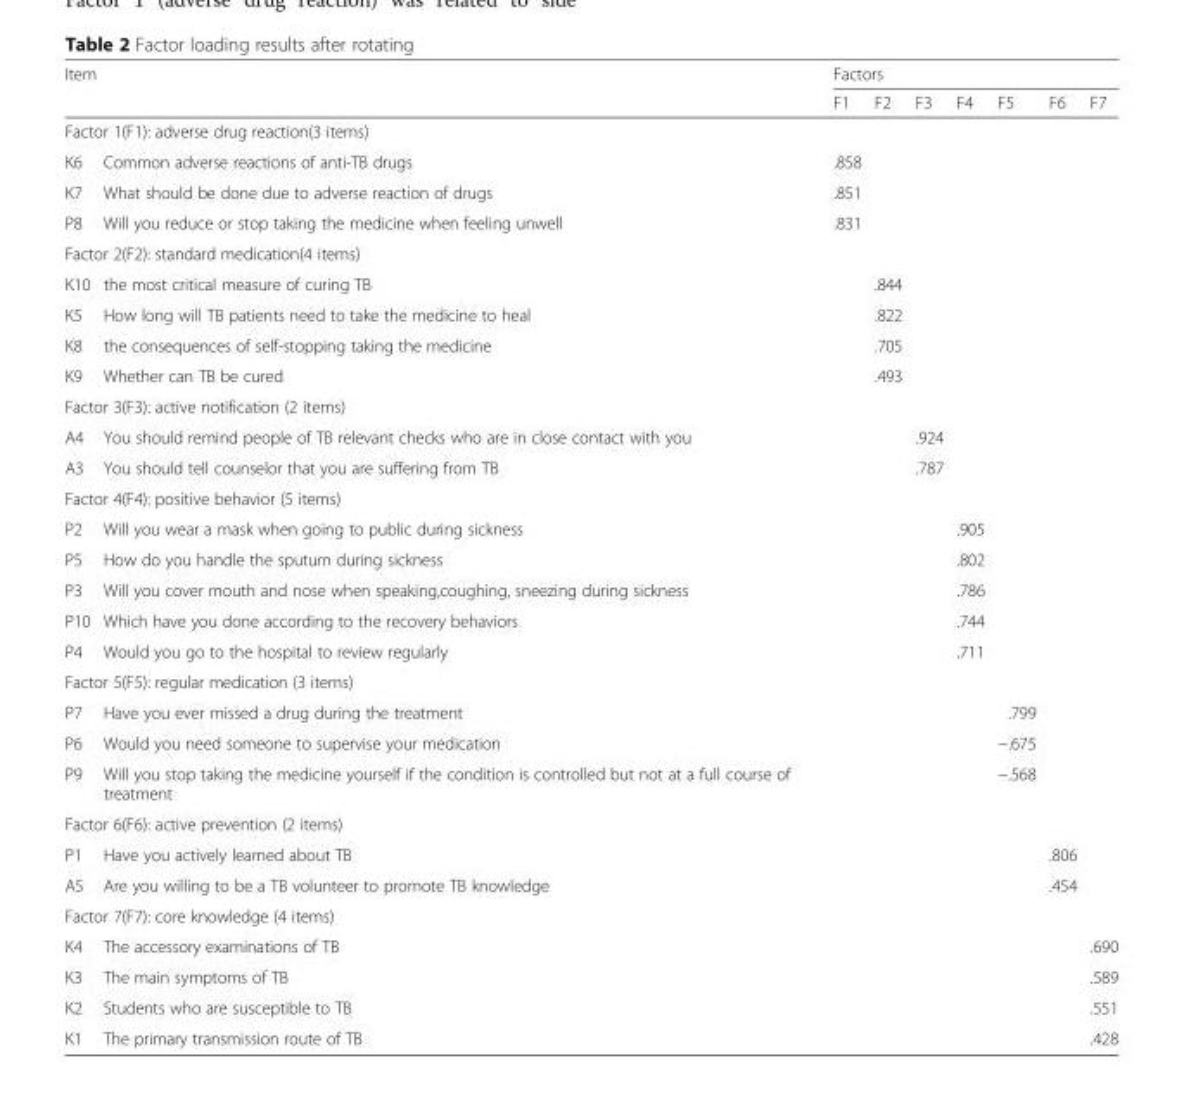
<table><thead><tr><td rowspan="3" colspan="2">Item Factor 1(F1): adverse drug reaction(3 items)</td><td colspan="7">Factors</td></tr><tr><td rowspan="3">F1 .858</td><td rowspan="3">F2</td><td rowspan="3">F3</td><td rowspan="3">F4</td><td rowspan="3">F5</td><td rowspan="3">F6</td><td rowspan="3">F7</td></tr><tr></tr><tr><td>K6</td><td>Common adverse reactions of anti-TB drugs</td></tr></thead><tbody><tr><td>K7</td><td>What should be done due to adverse reaction of drugs</td><td>.851</td><td></td><td></td><td></td><td></td><td></td><td></td></tr><tr><td>P8</td><td>Will you reduce or stop taking the medicine when feeling unwell</td><td>.831</td><td></td><td></td><td></td><td></td><td></td><td></td></tr><tr><td colspan="9">Factor 2(F2): standard medication(4 items)</td></tr><tr><td>K10</td><td>the most critical measure of curing TB</td><td></td><td>.844</td><td></td><td></td><td></td><td></td><td></td></tr><tr><td>K5</td><td>How long will TB patients need to take the medicine to heal</td><td></td><td>.822</td><td></td><td></td><td></td><td></td><td></td></tr><tr><td>K8</td><td>the consequences of self-stopping taking the medicine</td><td></td><td>.705</td><td></td><td></td><td></td><td></td><td></td></tr><tr><td>K9</td><td>Whether can TB be cured</td><td></td><td>.493</td><td></td><td></td><td></td><td></td><td></td></tr><tr><td colspan="9">Factor 3(F3): active notification (2 items)</td></tr><tr><td>A4</td><td>You should remind people of TB relevant checks who are in close contact with you</td><td></td><td></td><td>.924</td><td></td><td></td><td></td><td></td></tr><tr><td>A3</td><td>You should tell counselor that you are suffering from TB</td><td></td><td></td><td>.787</td><td></td><td></td><td></td><td></td></tr><tr><td colspan="9">Factor 4(F4): positive behavior (5 items)</td></tr><tr><td>P2</td><td>Will you wear a mask when going to public during sickness</td><td></td><td></td><td></td><td>.905</td><td></td><td></td><td></td></tr><tr><td>P5</td><td>How do you handle the sputum during sickness</td><td></td><td></td><td></td><td>.802</td><td></td><td></td><td></td></tr><tr><td>P3</td><td>Will you cover mouth and nose when speaking,coughing, sneezing during sickness</td><td></td><td></td><td></td><td>.786</td><td></td><td></td><td></td></tr><tr><td>P10</td><td>Which have you done according to the recovery behaviors</td><td></td><td></td><td></td><td>.744</td><td></td><td></td><td></td></tr><tr><td>P4</td><td>Would you go to the hospital to review regularly</td><td></td><td></td><td></td><td>.711</td><td></td><td></td><td></td></tr><tr><td colspan="9">Factor 5(F5): regular medication (3 items)</td></tr><tr><td>P7</td><td>Have you ever missed a drug during the treatment</td><td></td><td></td><td></td><td></td><td>.799</td><td></td><td></td></tr><tr><td>P6</td><td>Would you need someone to supervise your medication</td><td></td><td></td><td></td><td></td><td>−.675</td><td></td><td></td></tr><tr><td>P9</td><td>Will you stop taking the medicine yourself if the condition is controlled but not at a full course of treatment</td><td></td><td></td><td></td><td></td><td>−.568</td><td></td><td></td></tr><tr><td colspan="9">Factor 6(F6): active prevention (2 items)</td></tr><tr><td>P1</td><td>Have you actively learned about TB</td><td></td><td></td><td></td><td></td><td></td><td>.806</td><td></td></tr><tr><td>A5</td><td>Are you willing to be a TB volunteer to promote TB knowledge</td><td></td><td></td><td></td><td></td><td></td><td>.454</td><td></td></tr><tr><td colspan="9">Factor 7(F7): core knowledge (4 items)</td></tr><tr><td>K4</td><td>The accessory examinations of TB</td><td></td><td></td><td></td><td></td><td></td><td></td><td>.690</td></tr><tr><td>K3</td><td>The main symptoms of TB</td><td></td><td></td><td></td><td></td><td></td><td></td><td>.589</td></tr><tr><td>K2</td><td>Students who are susceptible to TB</td><td></td><td></td><td></td><td></td><td></td><td></td><td>.551</td></tr><tr><td>K1</td><td>The primary transmission route of TB</td><td></td><td></td><td></td><td></td><td></td><td></td><td>.428</td></tr></tbody></table>